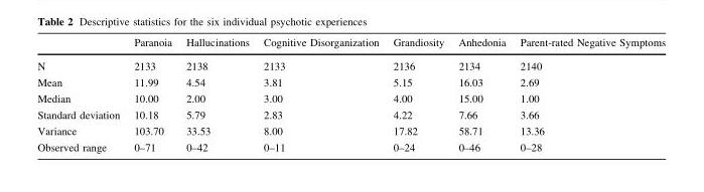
<table><thead><tr><td></td><td>Paranoia</td><td>Hallucinations</td><td>Cognitive Disorganization</td><td>Grandiosity</td><td>Anhedonia</td><td>Parent-rated Negative Symptoms</td></tr></thead><tbody><tr><td>N</td><td>2133</td><td>2138</td><td>2133</td><td>2136</td><td>2134</td><td>2140</td></tr><tr><td>Mean</td><td>11.99</td><td>4.54</td><td>3.81</td><td>5.15</td><td>16.03</td><td>2.69</td></tr><tr><td>Median</td><td>10.00</td><td>2.00</td><td>3.00</td><td>4.00</td><td>15.00</td><td>1.00</td></tr><tr><td>Standard deviation</td><td>10.18</td><td>5.79</td><td>2.83</td><td>4.22</td><td>7.66</td><td>3.66</td></tr><tr><td>Variance</td><td>103.70</td><td>33.53</td><td>8.00</td><td>17.82</td><td>58.71</td><td>13.36</td></tr><tr><td>Observed range</td><td>0–71</td><td>0–42</td><td>0–11</td><td>0–24</td><td>0–46</td><td>0–28</td></tr></tbody></table>